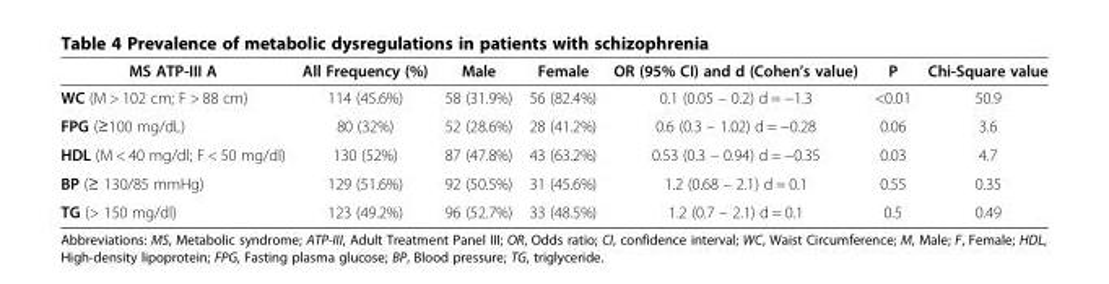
<table><thead><tr><td>MS ATP-III A</td><td>All Frequency (%)</td><td>Male</td><td>Female</td><td>OR (95% CI) and d (Cohen’s value)</td><td>P</td><td>Chi-Square value</td></tr></thead><tbody><tr><td>WC (M &gt; 102 cm; F &gt; 88 cm)</td><td>114 (45.6%)</td><td>58 (31.9%)</td><td>56 (82.4%)</td><td>0.1 (0.05 – 0.2) d = −1.3</td><td>&lt;0.01</td><td>50.9</td></tr><tr><td>FPG (≥100 mg/dL)</td><td>80 (32%)</td><td>52 (28.6%)</td><td>28 (41.2%)</td><td>0.6 (0.3 – 1.02) d = −0.28</td><td>0.06</td><td>3.6</td></tr><tr><td>HDL (M &lt; 40 mg/dl; F &lt; 50 mg/dl)</td><td>130 (52%)</td><td>87 (47.8%)</td><td>43 (63.2%)</td><td>0.53 (0.3 – 0.94) d = −0.35</td><td>0.03</td><td>4.7</td></tr><tr><td>BP (≥ 130/85 mmHg)</td><td>129 (51.6%)</td><td>92 (50.5%)</td><td>31 (45.6%)</td><td>1.2 (0.68 – 2.1) d = 0.1</td><td>0.55</td><td>0.35</td></tr><tr><td>TG (&gt; 150 mg/dl)</td><td>123 (49.2%)</td><td>96 (52.7%)</td><td>33 (48.5%)</td><td>1.2 (0.7 – 2.1) d = 0.1</td><td>0.5</td><td>0.49</td></tr></tbody></table>